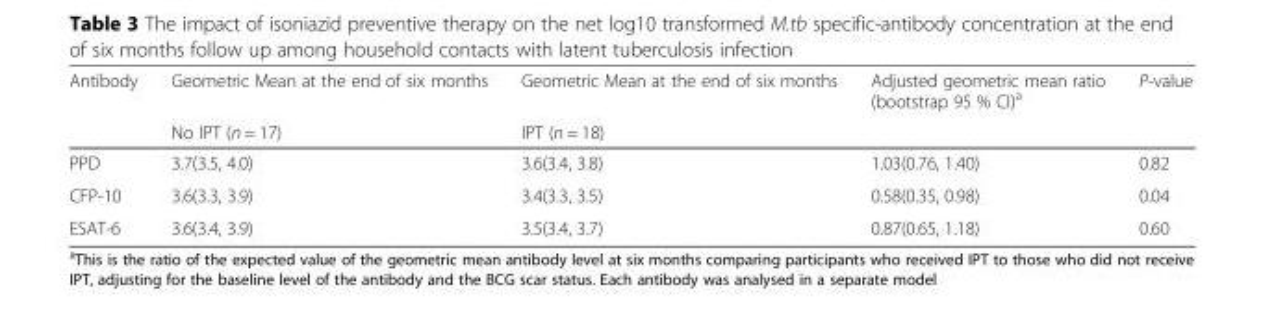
<table><thead><tr><td rowspan="2">Antibody</td><td rowspan="2">Geometric Mean at the end of six months No IPT (n = 17)</td><td rowspan="2">Geometric Mean at the end of six months IPT (n = 18)</td><td rowspan="2">Adjusted geometric mean ratio (bootstrap 95 % CI)<sup>a</sup></td><td rowspan="2">P-value</td></tr><tr></tr></thead><tbody><tr><td>PPD</td><td>3.7(3.5, 4.0)</td><td>3.6(3.4, 3.8)</td><td>1.03(0.76, 1.40)</td><td>0.82</td></tr><tr><td>CFP-10</td><td>3.6(3.3, 3.9)</td><td>3.4(3.3, 3.5)</td><td>0.58(0.35, 0.98)</td><td>0.04</td></tr><tr><td>ESAT-6</td><td>3.6(3.4, 3.9)</td><td>3.5(3.4, 3.7)</td><td>0.87(0.65, 1.18)</td><td>0.60</td></tr></tbody></table>